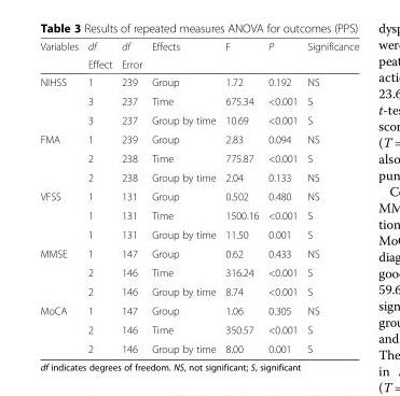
<table><thead><tr><td rowspan="2">Variables</td><td rowspan="2">df Effect</td><td rowspan="2">df Error</td><td rowspan="2">Effects</td><td rowspan="2">F</td><td rowspan="2">P</td><td rowspan="2">Significance</td></tr><tr></tr></thead><tbody><tr><td rowspan="3">NIHSS</td><td>1</td><td>239</td><td>Group</td><td>1.72</td><td>0.192</td><td>NS</td></tr><tr><td>3</td><td>237</td><td>Time</td><td>675.34</td><td>&lt;0.001</td><td>S</td></tr><tr><td>3</td><td>237</td><td>Group by time</td><td>10.69</td><td>&lt;0.001</td><td>S</td></tr><tr><td rowspan="3">FMA</td><td>1</td><td>239</td><td>Group</td><td>2.83</td><td>0.094</td><td>NS</td></tr><tr><td>2</td><td>238</td><td>Time</td><td>775.87</td><td>&lt;0.001</td><td>S</td></tr><tr><td>2</td><td>238</td><td>Group by time</td><td>2.04</td><td>0.133</td><td>NS</td></tr><tr><td rowspan="3">VFSS</td><td>1</td><td>131</td><td>Group</td><td>0.502</td><td>0.480</td><td>NS</td></tr><tr><td>1</td><td>131</td><td>Time</td><td>1500.16</td><td>&lt;0.001</td><td>S</td></tr><tr><td>1</td><td>131</td><td>Group by time</td><td>11.50</td><td>0.001</td><td>S</td></tr><tr><td rowspan="3">MMSE</td><td>1</td><td>147</td><td>Group</td><td>0.62</td><td>0.433</td><td>NS</td></tr><tr><td>2</td><td>146</td><td>Time</td><td>316.24</td><td>&lt;0.001</td><td>S</td></tr><tr><td>2</td><td>146</td><td>Group by time</td><td>8.74</td><td>&lt;0.001</td><td>S</td></tr><tr><td rowspan="3">MoCA</td><td>1</td><td>147</td><td>Group</td><td>1.06</td><td>0.305</td><td>NS</td></tr><tr><td>2</td><td>146</td><td>Time</td><td>350.57</td><td>&lt;0.001</td><td>S</td></tr><tr><td>2</td><td>146</td><td>Group by time</td><td>8.00</td><td>0.001</td><td>S</td></tr></tbody></table>